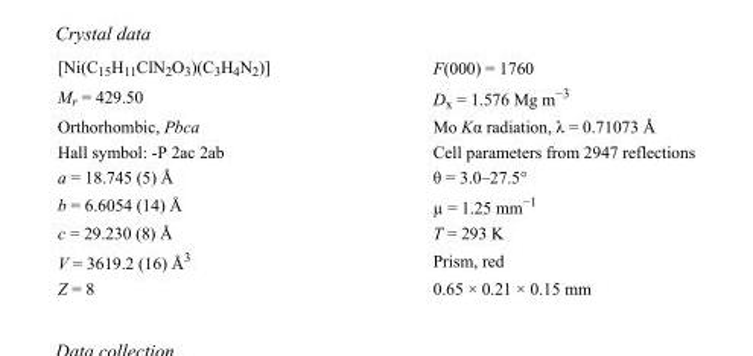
<table><tbody><tr><td>[Ni(C<sub>15</sub>H<sub>11</sub>ClN<sub>2</sub>O<sub>3</sub>)(C<sub>3</sub>H<sub>4</sub>N<sub>2</sub>)]</td><td>F(000) = 1760</td></tr><tr><td>M<sub>r</sub> = 429.50</td><td>D<sub>x</sub> = 1.576 Mg m<sup>−3</sup></td></tr><tr><td>Orthorhombic, Pbca</td><td>Mo Kα radiation, λ = 0.71073 Å</td></tr><tr><td>Hall symbol: -P 2ac 2ab</td><td>Cell parameters from 2947 reflections</td></tr><tr><td>a = 18.745 (5) Å</td><td>θ = 3.0–27.5°</td></tr><tr><td>b = 6.6054 (14) Å</td><td>µ = 1.25 mm<sup>−1</sup></td></tr><tr><td>c = 29.230 (8) Å</td><td>T = 293 K</td></tr><tr><td>V = 3619.2 (16) Å<sup>3</sup></td><td>Prism, red</td></tr><tr><td>Z = 8</td><td>0.65 × 0.21 × 0.15 mm</td></tr></tbody></table>